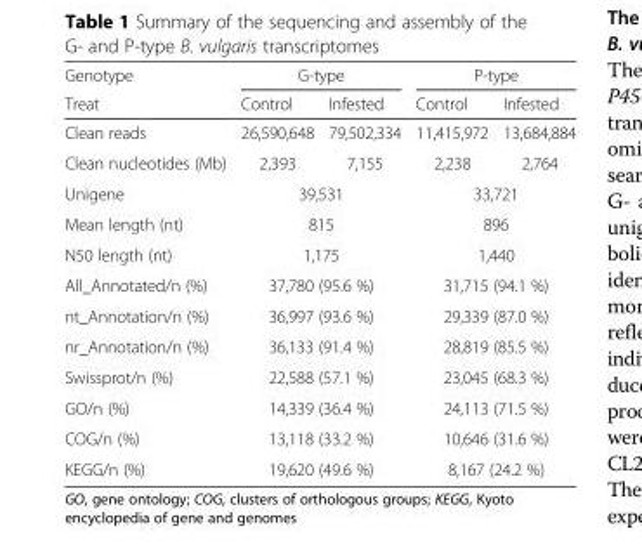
<table><thead><tr><td rowspan="2">Genotype Treat</td><td colspan="2">G-type</td><td colspan="2">P-type</td></tr><tr><td>Control</td><td>Infested</td><td>Control</td><td>Infested</td></tr></thead><tbody><tr><td>Clean reads</td><td>26,590,648</td><td>79,502,334</td><td>11,415,972</td><td>13,684,884</td></tr><tr><td>Clean nucleotides (Mb)</td><td>2,393</td><td>7,155</td><td>2,238</td><td>2,764</td></tr><tr><td>Unigene</td><td colspan="2">39,531</td><td colspan="2">33,721</td></tr><tr><td>Mean length (nt)</td><td colspan="2">815</td><td colspan="2">896</td></tr><tr><td>N50 length (nt)</td><td colspan="2">1,175</td><td colspan="2">1,440</td></tr><tr><td>All_Annotated/n (%)</td><td colspan="2">37,780 (95.6 %)</td><td colspan="2">31,715 (94.1 %)</td></tr><tr><td>nt_Annotation/n (%)</td><td colspan="2">36,997 (93.6 %)</td><td colspan="2">29,339 (87.0 %)</td></tr><tr><td>nr_Annotation/n (%)</td><td colspan="2">36,133 (91.4 %)</td><td colspan="2">28,819 (85.5 %)</td></tr><tr><td>Swissprot/n (%)</td><td colspan="2">22,588 (57.1 %)</td><td colspan="2">23,045 (68.3 %)</td></tr><tr><td>GO/n (%)</td><td colspan="2">14,339 (36.4 %)</td><td colspan="2">24,113 (71.5 %)</td></tr><tr><td>COG/n (%)</td><td colspan="2">13,118 (33.2 %)</td><td colspan="2">10,646 (31.6 %)</td></tr><tr><td>KEGG/n (%)</td><td colspan="2">19,620 (49.6 %)</td><td colspan="2">8,167 (24.2 %)</td></tr></tbody></table>